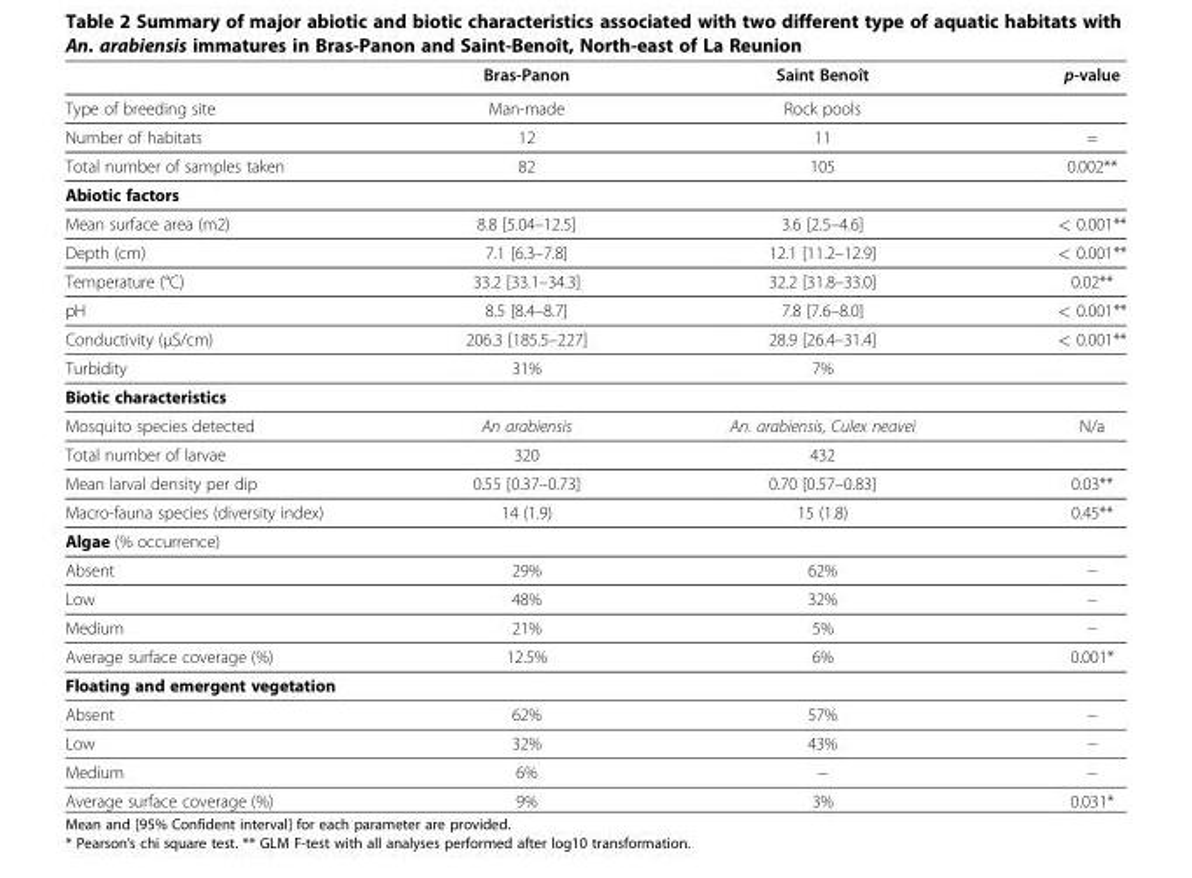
<table><thead><tr><td></td><td>Bras-Panon</td><td>Saint Benoît</td><td>p-value</td></tr></thead><tbody><tr><td>Type of breeding site</td><td>Man-made</td><td>Rock pools</td><td></td></tr><tr><td>Number of habitats</td><td>12</td><td>11</td><td>=</td></tr><tr><td>Total number of samples taken</td><td>82</td><td>105</td><td>0.002**</td></tr><tr><td colspan="4">Abiotic factors</td></tr><tr><td>Mean surface area (m2)</td><td>8.8 [5.04–12.5]</td><td>3.6 [2.5–4.6]</td><td>&lt; 0.001**</td></tr><tr><td>Depth (cm)</td><td>7.1 [6.3–7.8]</td><td>12.1 [11.2–12.9]</td><td>&lt; 0.001**</td></tr><tr><td>Temperature (°C)</td><td>33.2 [33.1–34.3]</td><td>32.2 [31.8–33.0]</td><td>0.02**</td></tr><tr><td>pH</td><td>8.5 [8.4–8.7]</td><td>7.8 [7.6–8.0]</td><td>&lt; 0.001**</td></tr><tr><td>Conductivity (μS/cm)</td><td>206.3 [185.5–227]</td><td>28.9 [26.4–31.4]</td><td>&lt; 0.001**</td></tr><tr><td>Turbidity</td><td>31%</td><td>7%</td><td></td></tr><tr><td colspan="4">Biotic characteristics</td></tr><tr><td>Mosquito species detected</td><td>An arabiensis</td><td>An. arabiensis, Culex neavei</td><td>N/a</td></tr><tr><td>Total number of larvae</td><td>320</td><td>432</td><td></td></tr><tr><td>Mean larval density per dip</td><td>0.55 [0.37–0.73]</td><td>0.70 [0.57–0.83]</td><td>0.03**</td></tr><tr><td>Macro-fauna species (diversity index)</td><td>14 (1.9)</td><td>15 (1.8)</td><td>0.45**</td></tr><tr><td colspan="4">Algae (% occurrence)</td></tr><tr><td>Absent</td><td>29%</td><td>62%</td><td>−</td></tr><tr><td>Low</td><td>48%</td><td>32%</td><td>−</td></tr><tr><td>Medium</td><td>21%</td><td>5%</td><td>−</td></tr><tr><td>Average surface coverage (%)</td><td>12.5%</td><td>6%</td><td>0.001*</td></tr><tr><td colspan="4">Floating and emergent vegetation</td></tr><tr><td>Absent</td><td>62%</td><td>57%</td><td>−</td></tr><tr><td>Low</td><td>32%</td><td>43%</td><td>−</td></tr><tr><td>Medium</td><td>6%</td><td>−</td><td>−</td></tr><tr><td>Average surface coverage (%)</td><td>9%</td><td>3%</td><td>0.031*</td></tr></tbody></table>